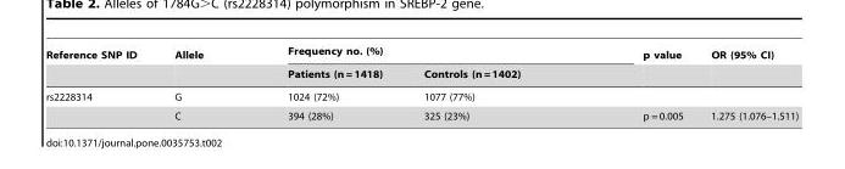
<table><thead><tr><td rowspan="2">Reference SNP ID</td><td rowspan="2">Allele</td><td colspan="2">Frequency no. (%)</td><td rowspan="2">p value</td><td rowspan="2">OR (95% CI)</td></tr><tr><td>Patients (n = 1418)</td><td>Controls (n = 1402)</td></tr></thead><tbody><tr><td rowspan="2">rs2228314</td><td>G</td><td>1024 (72%)</td><td>1077 (77%)</td><td></td><td></td></tr><tr><td>C</td><td>394 (28%)</td><td>325 (23%)</td><td>p = 0.005</td><td>1.275 (1.076–1.511)</td></tr></tbody></table>